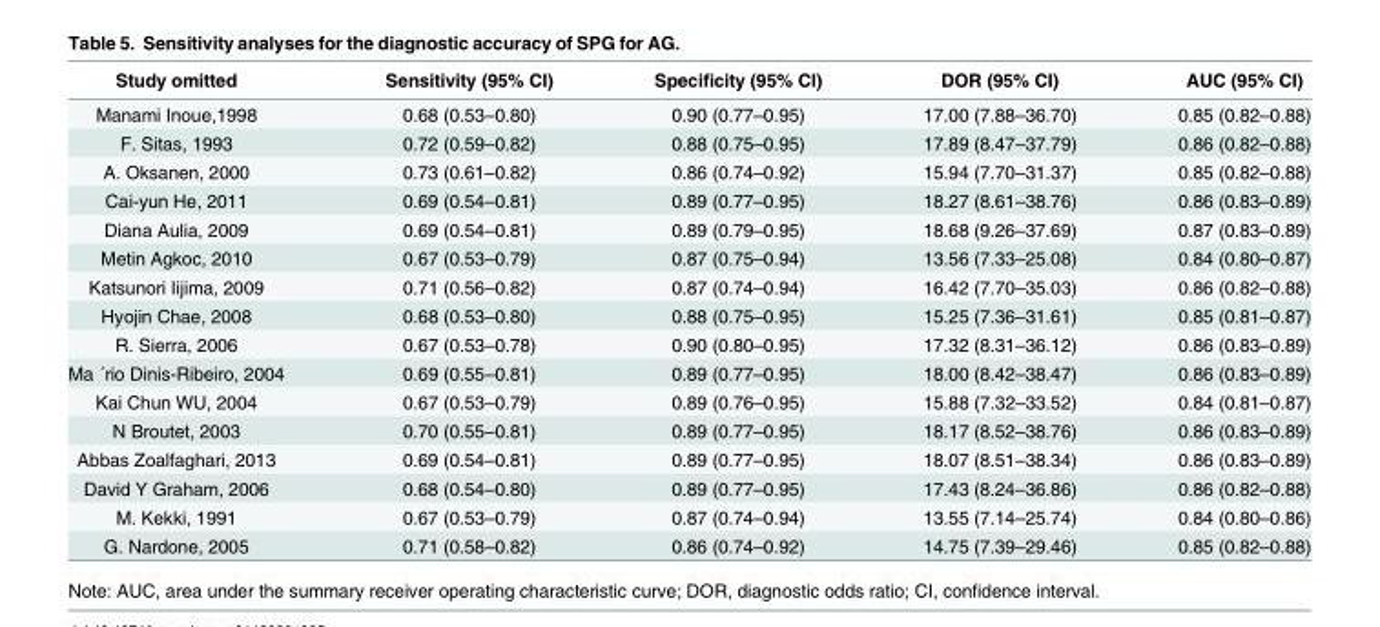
<table><thead><tr><td>Study omitted</td><td>Sensitivity (95% CI)</td><td>Specificity (95% CI)</td><td>DOR (95% CI)</td><td>AUC (95% CI)</td></tr></thead><tbody><tr><td>Manami Inoue,1998</td><td>0.68 (0.53–0.80)</td><td>0.90 (0.77–0.95)</td><td>17.00 (7.88–36.70)</td><td>0.85 (0.82–0.88)</td></tr><tr><td>F. Sitas, 1993</td><td>0.72 (0.59–0.82)</td><td>0.88 (0.75–0.95)</td><td>17.89 (8.47–37.79)</td><td>0.86 (0.82–0.88)</td></tr><tr><td>A. Oksanen, 2000</td><td>0.73 (0.61–0.82)</td><td>0.86 (0.74–0.92)</td><td>15.94 (7.70–31.37)</td><td>0.85 (0.82–0.88)</td></tr><tr><td>Cai-yun He, 2011</td><td>0.69 (0.54–0.81)</td><td>0.89 (0.77–0.95)</td><td>18.27 (8.61–38.76)</td><td>0.86 (0.83–0.89)</td></tr><tr><td>Diana Aulia, 2009</td><td>0.69 (0.54–0.81)</td><td>0.89 (0.79–0.95)</td><td>18.68 (9.26–37.69)</td><td>0.87 (0.83–0.89)</td></tr><tr><td>Metin Agkoc, 2010</td><td>0.67 (0.53–0.79)</td><td>0.87 (0.75–0.94)</td><td>13.56 (7.33–25.08)</td><td>0.84 (0.80–0.87)</td></tr><tr><td>Katsunori Iijima, 2009</td><td>0.71 (0.56–0.82)</td><td>0.87 (0.74–0.94)</td><td>16.42 (7.70–35.03)</td><td>0.86 (0.82–0.88)</td></tr><tr><td>Hyojin Chae, 2008</td><td>0.68 (0.53–0.80)</td><td>0.88 (0.75–0.95)</td><td>15.25 (7.36–31.61)</td><td>0.85 (0.81–0.87)</td></tr><tr><td>R. Sierra, 2006</td><td>0.67 (0.53–0.78)</td><td>0.90 (0.80–0.95)</td><td>17.32 (8.31–36.12)</td><td>0.86 (0.83–0.89)</td></tr><tr><td>Ma ´rio Dinis-Ribeiro, 2004</td><td>0.69 (0.55–0.81)</td><td>0.89 (0.77–0.95)</td><td>18.00 (8.42–38.47)</td><td>0.86 (0.83–0.89)</td></tr><tr><td>Kai Chun WU, 2004</td><td>0.67 (0.53–0.79)</td><td>0.89 (0.76–0.95)</td><td>15.88 (7.32–33.52)</td><td>0.84 (0.81–0.87)</td></tr><tr><td>N Broutet, 2003</td><td>0.70 (0.55–0.81)</td><td>0.89 (0.77–0.95)</td><td>18.17 (8.52–38.76)</td><td>0.86 (0.83–0.89)</td></tr><tr><td>Abbas Zoalfaghari, 2013</td><td>0.69 (0.54–0.81)</td><td>0.89 (0.77–0.95)</td><td>18.07 (8.51–38.34)</td><td>0.86 (0.83–0.89)</td></tr><tr><td>David Y Graham, 2006</td><td>0.68 (0.54–0.80)</td><td>0.89 (0.77–0.95)</td><td>17.43 (8.24–36.86)</td><td>0.86 (0.82–0.88)</td></tr><tr><td>M. Kekki, 1991</td><td>0.67 (0.53–0.79)</td><td>0.87 (0.74–0.94)</td><td>13.55 (7.14–25.74)</td><td>0.84 (0.80–0.86)</td></tr><tr><td>G. Nardone, 2005</td><td>0.71 (0.58–0.82)</td><td>0.86 (0.74–0.92)</td><td>14.75 (7.39–29.46)</td><td>0.85 (0.82–0.88)</td></tr></tbody></table>